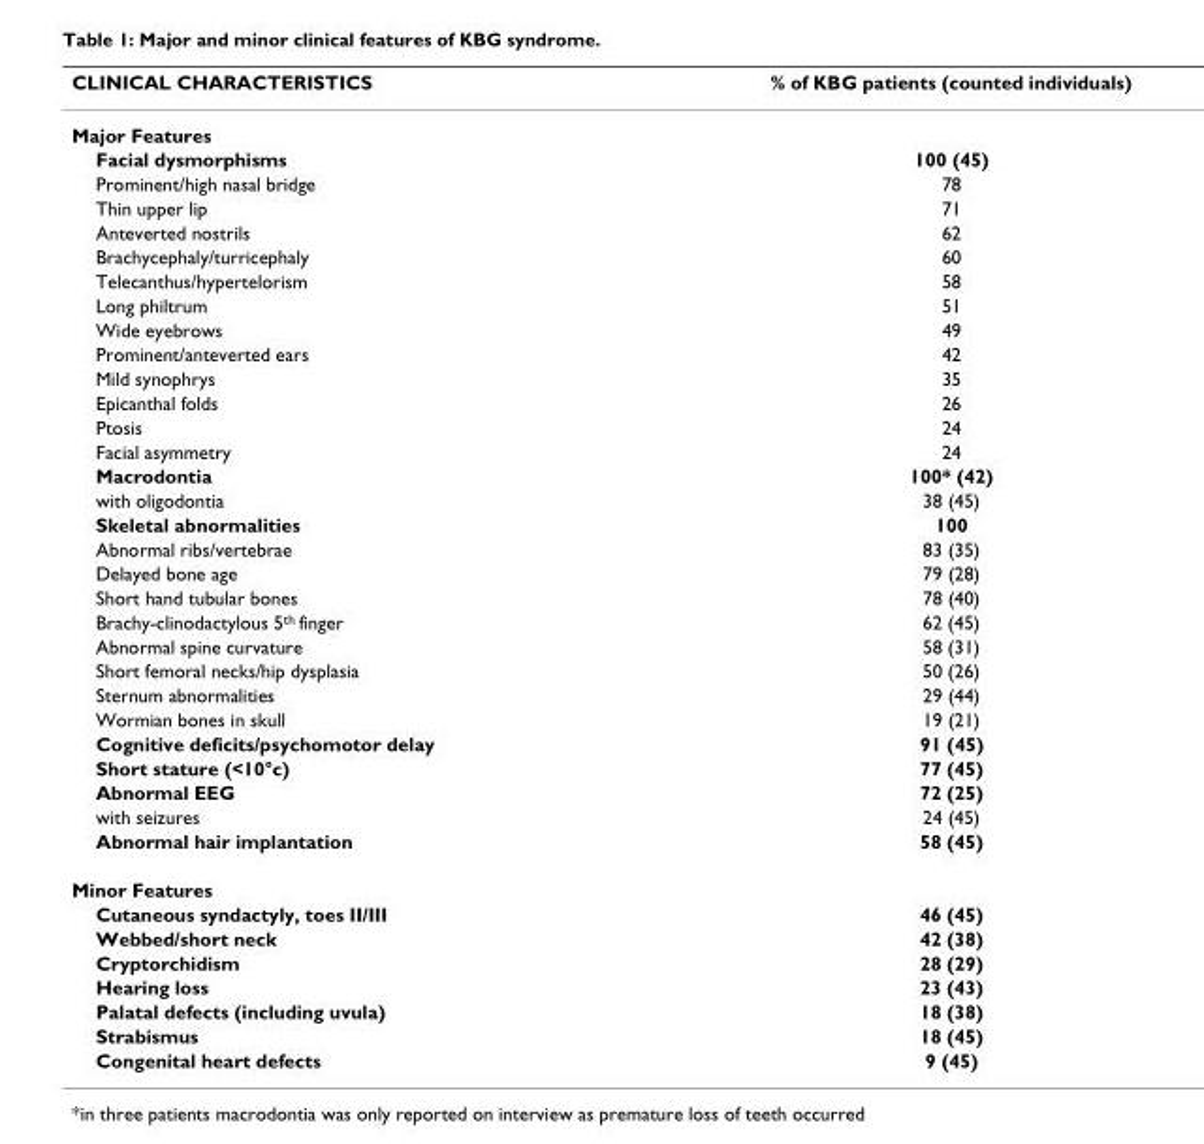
<table><thead><tr><td>CLINICAL CHARACTERISTICS</td><td>% of KBG patients (counted individuals)</td></tr></thead><tbody><tr><td colspan="2">Major Features</td></tr><tr><td>Facial dysmorphisms</td><td>100 (45)</td></tr><tr><td>Prominent/high nasal bridge</td><td>78</td></tr><tr><td>Thin upper lip</td><td>71</td></tr><tr><td>Anteverted nostrils</td><td>62</td></tr><tr><td>Brachycephaly/turricephaly</td><td>60</td></tr><tr><td>Telecanthus/hypertelorism</td><td>58</td></tr><tr><td>Long philtrum</td><td>51</td></tr><tr><td>Wide eyebrows</td><td>49</td></tr><tr><td>Prominent/anteverted ears</td><td>42</td></tr><tr><td>Mild synophrys</td><td>35</td></tr><tr><td>Epicanthal folds</td><td>26</td></tr><tr><td>Ptosis</td><td>24</td></tr><tr><td>Facial asymmetry</td><td>24</td></tr><tr><td>Macrodontia</td><td>100* (42)</td></tr><tr><td>with oligodontia</td><td>38 (45)</td></tr><tr><td>Skeletal abnormalities</td><td>100</td></tr><tr><td>Abnormal ribs/vertebrae</td><td>83 (35)</td></tr><tr><td>Delayed bone age</td><td>79 (28)</td></tr><tr><td>Short hand tubular bones</td><td>78 (40)</td></tr><tr><td>Brachy-clinodactylous 5<sup>th</sup> finger</td><td>62 (45)</td></tr><tr><td>Abnormal spine curvature</td><td>58 (31)</td></tr><tr><td>Short femoral necks/hip dysplasia</td><td>50 (26)</td></tr><tr><td>Sternum abnormalities</td><td>29 (44)</td></tr><tr><td>Wormian bones in skull</td><td>19 (21)</td></tr><tr><td>Cognitive deficits/psychomotor delay</td><td>91 (45)</td></tr><tr><td>Short stature (&lt;10°c)</td><td>77 (45)</td></tr><tr><td>Abnormal EEG</td><td>72 (25)</td></tr><tr><td>with seizures</td><td>24 (45)</td></tr><tr><td>Abnormal hair implantation</td><td>58 (45)</td></tr><tr><td colspan="2">Minor Features</td></tr><tr><td>Cutaneous syndactyly, toes II/III</td><td>46 (45)</td></tr><tr><td>Webbed/short neck</td><td>42 (38)</td></tr><tr><td>Cryptorchidism</td><td>28 (29)</td></tr><tr><td>Hearing loss</td><td>23 (43)</td></tr><tr><td>Palatal defects (including uvula)</td><td>18 (38)</td></tr><tr><td>Strabismus</td><td>18 (45)</td></tr><tr><td>Congenital heart defects</td><td>9 (45)</td></tr></tbody></table>